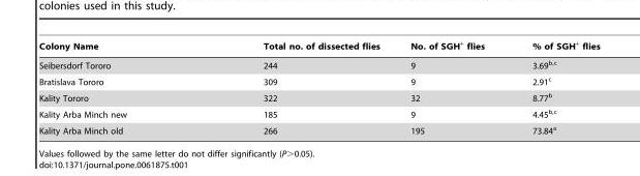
<table><thead><tr><td>Colony Name</td><td>Total no. of dissected flies</td><td>No. of SGH<sup>+</sup> flies</td><td>% of SGH<sup>+</sup> flies</td></tr></thead><tbody><tr><td>Seibersdorf Tororo</td><td>244</td><td>9</td><td>3.69<sup>b,c</sup></td></tr><tr><td>Bratislava Tororo</td><td>309</td><td>9</td><td>2.91<sup>c</sup></td></tr><tr><td>Kality Tororo</td><td>322</td><td>32</td><td>8.77<sup>b</sup></td></tr><tr><td>Kality Arba Minch new</td><td>185</td><td>9</td><td>4.45<sup>b,c</sup></td></tr><tr><td>Kality Arba Minch old</td><td>266</td><td>195</td><td>73.84<sup>a</sup></td></tr></tbody></table>